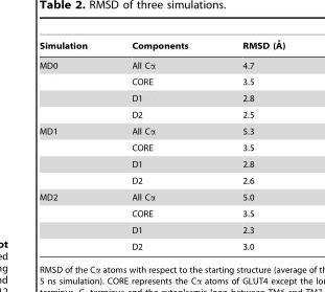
<table><thead><tr><td>Simulation</td><td>Components</td><td>RMSD (A˚ )</td></tr></thead><tbody><tr><td rowspan="4">MD0</td><td>All Cα</td><td>4.7</td></tr><tr><td>CORE</td><td>3.5</td></tr><tr><td>D1</td><td>2.8</td></tr><tr><td>D2</td><td>2.5</td></tr><tr><td rowspan="4">MD1</td><td>All Cα</td><td>5.3</td></tr><tr><td>CORE</td><td>3.5</td></tr><tr><td>D1</td><td>2.8</td></tr><tr><td>D2</td><td>2.6</td></tr><tr><td rowspan="4">MD2</td><td>All Cα</td><td>5.0</td></tr><tr><td>CORE</td><td>3.5</td></tr><tr><td>D1</td><td>2.3</td></tr><tr><td>D2</td><td>3.0</td></tr></tbody></table>